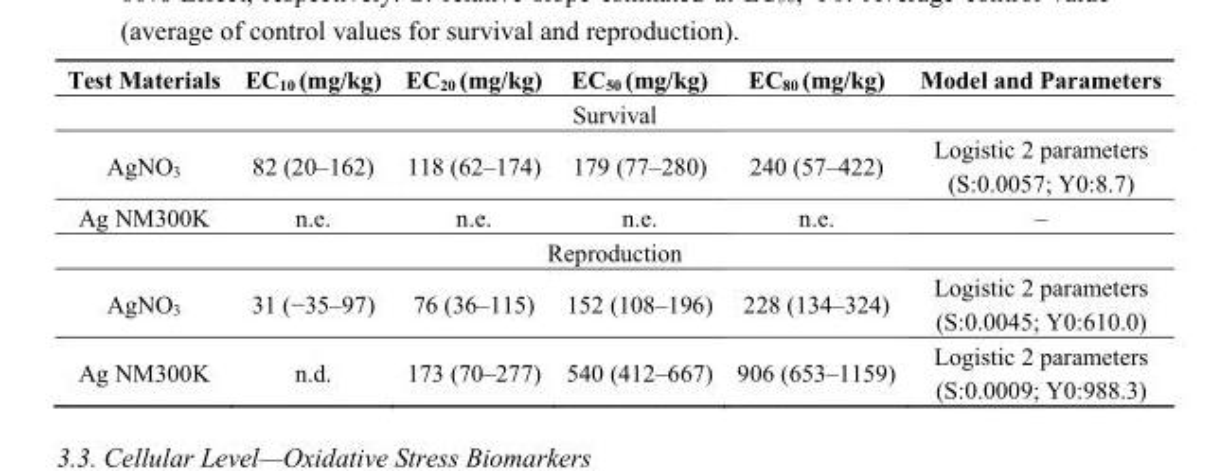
<table><thead><tr><td>Test Materials</td><td>EC<sub>10</sub> (mg/kg)</td><td>EC<sub>20</sub> (mg/kg)</td><td>EC<sub>50</sub> (mg/kg)</td><td>EC<sub>80</sub> (mg/kg)</td><td>Model and Parameters</td></tr></thead><tbody><tr><td colspan="6">Survival</td></tr><tr><td>AgNO<sub>3</sub></td><td>82 (20–162)</td><td>118 (62–174)</td><td>179 (77–280)</td><td>240 (57–422)</td><td>Logistic 2 parameters (S:0.0057; Y0:8.7)</td></tr><tr><td>Ag NM300K</td><td>n.e.</td><td>n.e.</td><td>n.e.</td><td>n.e.</td><td>–</td></tr><tr><td colspan="6">Reproduction</td></tr><tr><td>AgNO<sub>3</sub></td><td>31 (−35–97)</td><td>76 (36–115)</td><td>152 (108–196)</td><td>228 (134–324)</td><td>Logistic 2 parameters (S:0.0045; Y0:610.0)</td></tr><tr><td>Ag NM300K</td><td>n.d.</td><td>173 (70–277)</td><td>540 (412–667)</td><td>906 (653–1159)</td><td>Logistic 2 parameters (S:0.0009; Y0:988.3)</td></tr></tbody></table>